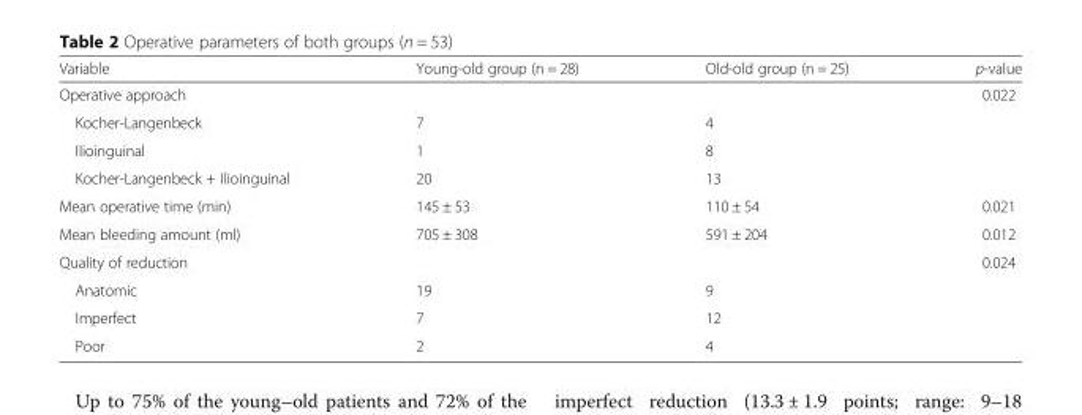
<table><thead><tr><td>Variable</td><td>Young-old group (n = 28)</td><td>Old-old group (n = 25)</td><td>p-value</td></tr></thead><tbody><tr><td>Operative approach</td><td></td><td></td><td>0.022</td></tr><tr><td>Kocher-Langenbeck</td><td>7</td><td>4</td><td></td></tr><tr><td>Ilioinguinal</td><td>1</td><td>8</td><td></td></tr><tr><td>Kocher-Langenbeck + Ilioinguinal</td><td>20</td><td>13</td><td></td></tr><tr><td>Mean operative time (min)</td><td>145 ± 53</td><td>110 ± 54</td><td>0.021</td></tr><tr><td>Mean bleeding amount (ml)</td><td>705 ± 308</td><td>591 ± 204</td><td>0.012</td></tr><tr><td>Quality of reduction</td><td></td><td></td><td>0.024</td></tr><tr><td>Anatomic</td><td>19</td><td>9</td><td></td></tr><tr><td>Imperfect</td><td>7</td><td>12</td><td></td></tr><tr><td>Poor</td><td>2</td><td>4</td><td></td></tr></tbody></table>